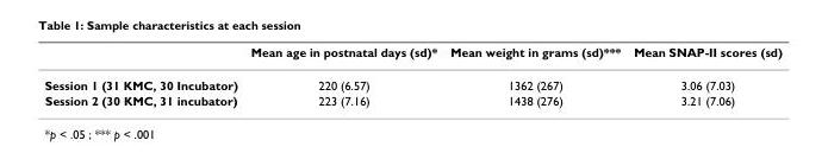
<table><thead><tr><td></td><td>Mean age in postnatal days (sd)*</td><td>Mean weight in grams (sd)***</td><td>Mean SNAP-II scores (sd)</td></tr></thead><tbody><tr><td>Session 1 (31 KMC, 30 Incubator)</td><td>220 (6.57)</td><td>1362 (267)</td><td>3.06 (7.03)</td></tr><tr><td>Session 2 (30 KMC, 31 incubator)</td><td>223 (7.16)</td><td>1438 (276)</td><td>3.21 (7.06)</td></tr></tbody></table>